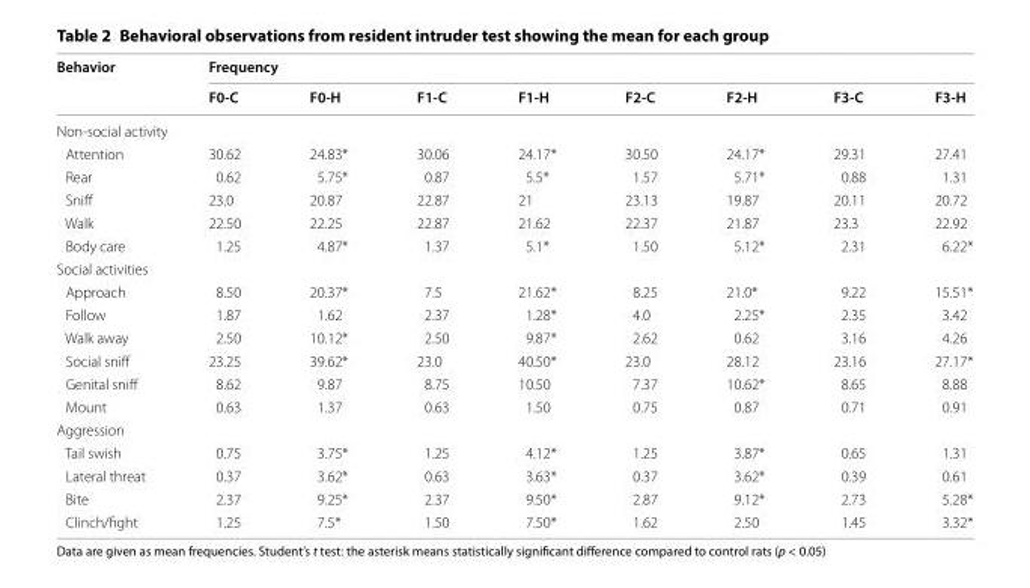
<table><thead><tr><td rowspan="2">Behavior</td><td colspan="8">Frequency</td></tr><tr><td>F0‑C</td><td>F0‑H</td><td>F1‑C</td><td>F1‑H</td><td>F2‑C</td><td>F2‑H</td><td>F3‑C</td><td>F3‑H</td></tr></thead><tbody><tr><td colspan="9">Non-social activity</td></tr><tr><td>Attention</td><td>30.62</td><td>24.83*</td><td>30.06</td><td>24.17*</td><td>30.50</td><td>24.17*</td><td>29.31</td><td>27.41</td></tr><tr><td>Rear</td><td>0.62</td><td>5.75*</td><td>0.87</td><td>5.5*</td><td>1.57</td><td>5.71*</td><td>0.88</td><td>1.31</td></tr><tr><td>Sniff</td><td>23.0</td><td>20.87</td><td>22.87</td><td>21</td><td>23.13</td><td>19.87</td><td>20.11</td><td>20.72</td></tr><tr><td>Walk</td><td>22.50</td><td>22.25</td><td>22.87</td><td>21.62</td><td>22.37</td><td>21.87</td><td>23.3</td><td>22.92</td></tr><tr><td>Body care</td><td>1.25</td><td>4.87*</td><td>1.37</td><td>5.1*</td><td>1.50</td><td>5.12*</td><td>2.31</td><td>6.22*</td></tr><tr><td colspan="9">Social activities</td></tr><tr><td>Approach</td><td>8.50</td><td>20.37*</td><td>7.5</td><td>21.62*</td><td>8.25</td><td>21.0*</td><td>9.22</td><td>15.51*</td></tr><tr><td>Follow</td><td>1.87</td><td>1.62</td><td>2.37</td><td>1.28*</td><td>4.0</td><td>2.25*</td><td>2.35</td><td>3.42</td></tr><tr><td>Walk away</td><td>2.50</td><td>10.12*</td><td>2.50</td><td>9.87*</td><td>2.62</td><td>0.62</td><td>3.16</td><td>4.26</td></tr><tr><td>Social sniff</td><td>23.25</td><td>39.62*</td><td>23.0</td><td>40.50*</td><td>23.0</td><td>28.12</td><td>23.16</td><td>27.17*</td></tr><tr><td>Genital sniff</td><td>8.62</td><td>9.87</td><td>8.75</td><td>10.50</td><td>7.37</td><td>10.62*</td><td>8.65</td><td>8.88</td></tr><tr><td>Mount</td><td>0.63</td><td>1.37</td><td>0.63</td><td>1.50</td><td>0.75</td><td>0.87</td><td>0.71</td><td>0.91</td></tr><tr><td colspan="9">Aggression</td></tr><tr><td>Tail swish</td><td>0.75</td><td>3.75*</td><td>1.25</td><td>4.12*</td><td>1.25</td><td>3.87*</td><td>0.65</td><td>1.31</td></tr><tr><td>Lateral threat</td><td>0.37</td><td>3.62*</td><td>0.63</td><td>3.63*</td><td>0.37</td><td>3.62*</td><td>0.39</td><td>0.61</td></tr><tr><td>Bite</td><td>2.37</td><td>9.25*</td><td>2.37</td><td>9.50*</td><td>2.87</td><td>9.12*</td><td>2.73</td><td>5.28*</td></tr><tr><td>Clinch/fight</td><td>1.25</td><td>7.5*</td><td>1.50</td><td>7.50*</td><td>1.62</td><td>2.50</td><td>1.45</td><td>3.32*</td></tr></tbody></table>